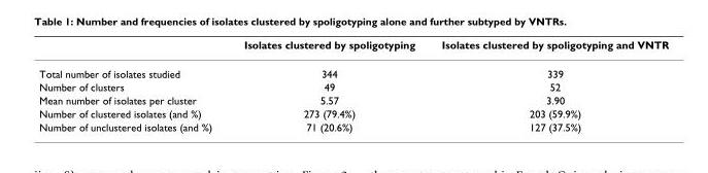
<table><thead><tr><td></td><td>Isolates clustered by spoligotyping</td><td>Isolates clustered by spoligotyping and VNTR</td></tr></thead><tbody><tr><td>Total number of isolates studied</td><td>344</td><td>339</td></tr><tr><td>Number of clusters</td><td>49</td><td>52</td></tr><tr><td>Mean number of isolates per cluster</td><td>5.57</td><td>3.90</td></tr><tr><td>Number of clustered isolates (and %)</td><td>273 (79.4%)</td><td>203 (59.9%)</td></tr><tr><td>Number of unclustered isolates (and %)</td><td>71 (20.6%)</td><td>127 (37.5%)</td></tr></tbody></table>